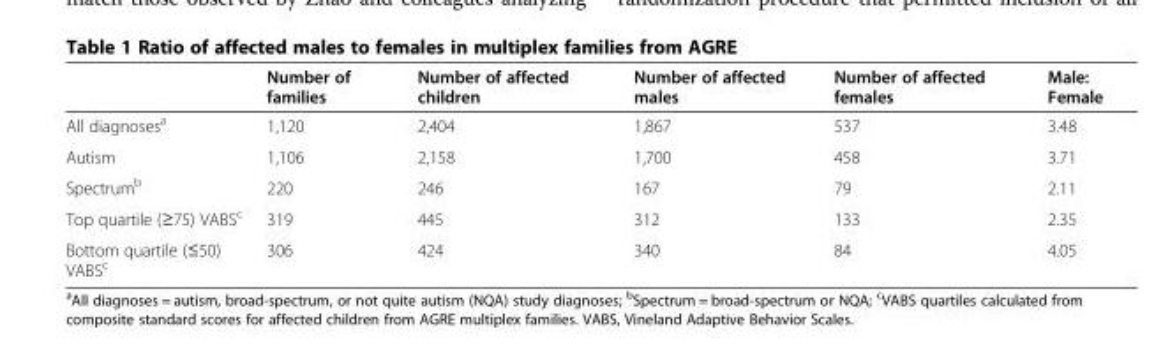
<table><thead><tr><td></td><td>Number of families</td><td>Number of affected children</td><td>Number of affected males</td><td>Number of affected females</td><td>Male: Female</td></tr></thead><tbody><tr><td>All diagnoses<sup>a</sup></td><td>1,120</td><td>2,404</td><td>1,867</td><td>537</td><td>3.48</td></tr><tr><td>Autism</td><td>1,106</td><td>2,158</td><td>1,700</td><td>458</td><td>3.71</td></tr><tr><td>Spectrum<sup>b</sup></td><td>220</td><td>246</td><td>167</td><td>79</td><td>2.11</td></tr><tr><td>Top quartile (≥75) VABS<sup>c</sup></td><td>319</td><td>445</td><td>312</td><td>133</td><td>2.35</td></tr><tr><td>Bottom quartile (≤50) VABS<sup>c</sup></td><td>306</td><td>424</td><td>340</td><td>84</td><td>4.05</td></tr></tbody></table>